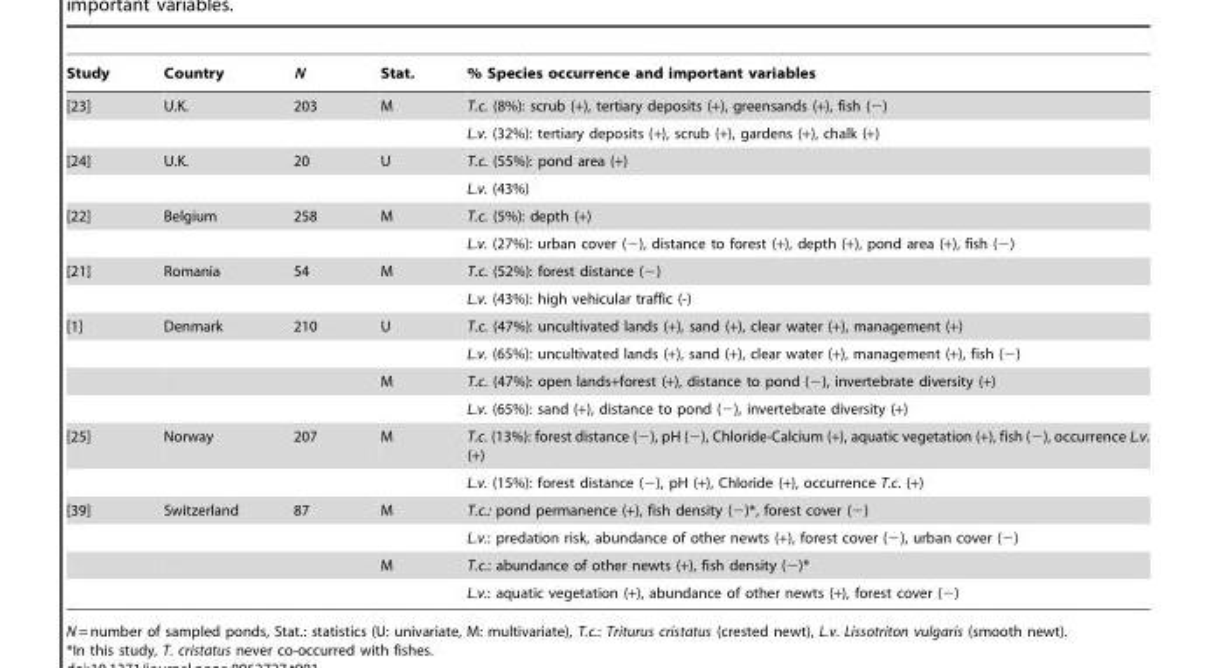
<table><thead><tr><td>Study</td><td>Country</td><td>N</td><td>Stat.</td><td>% Species occurrence and important variables</td></tr></thead><tbody><tr><td rowspan="2">[23]</td><td>U.K.</td><td>203</td><td>M</td><td>T.c. (8%): scrub (+), tertiary deposits (+), greensands (+), fish (−)</td></tr><tr><td></td><td></td><td></td><td>L.v. (32%): tertiary deposits (+), scrub (+), gardens (+), chalk (+)</td></tr><tr><td rowspan="2">[24]</td><td>U.K.</td><td>20</td><td>U</td><td>T.c. (55%): pond area (+)</td></tr><tr><td></td><td></td><td></td><td>L.v. (43%)</td></tr><tr><td rowspan="2">[22]</td><td>Belgium</td><td>258</td><td>M</td><td>T.c. (5%): depth (+)</td></tr><tr><td></td><td></td><td></td><td>L.v. (27%): urban cover (−), distance to forest (+), depth (+), pond area (+), fish (−)</td></tr><tr><td rowspan="2">[21]</td><td>Romania</td><td>54</td><td>M</td><td>T.c. (52%): forest distance (−)</td></tr><tr><td></td><td></td><td></td><td>L.v. (43%): high vehicular traffic (-)</td></tr><tr><td rowspan="4">[1]</td><td>Denmark</td><td>210</td><td>U</td><td>T.c. (47%): uncultivated lands (+), sand (+), clear water (+), management (+)</td></tr><tr><td></td><td></td><td></td><td>L.v. (65%): uncultivated lands (+), sand (+), clear water (+), management (+), fish (−)</td></tr><tr><td></td><td></td><td>M</td><td>T.c. (47%): open lands+forest (+), distance to pond (−), invertebrate diversity (+)</td></tr><tr><td></td><td></td><td></td><td>L.v. (65%): sand (+), distance to pond (−), invertebrate diversity (+)</td></tr><tr><td rowspan="2">[25]</td><td>Norway</td><td>207</td><td>M</td><td>T.c. (13%): forest distance (−), pH (−), Chloride-Calcium (+), aquatic vegetation (+), fish (−), occurrence L.v. (+)</td></tr><tr><td></td><td></td><td></td><td>L.v. (15%): forest distance (−), pH (+), Chloride (+), occurrence T.c. (+)</td></tr><tr><td rowspan="4">[39]</td><td>Switzerland</td><td>87</td><td>M</td><td>T.c.: pond permanence (+), fish density (−)*, forest cover (−)</td></tr><tr><td></td><td></td><td></td><td>L.v.: predation risk, abundance of other newts (+), forest cover (−), urban cover (−)</td></tr><tr><td></td><td></td><td>M</td><td>T.c.: abundance of other newts (+), fish density (−)*</td></tr><tr><td></td><td></td><td></td><td>L.v.: aquatic vegetation (+), abundance of other newts (+), forest cover (−)</td></tr></tbody></table>